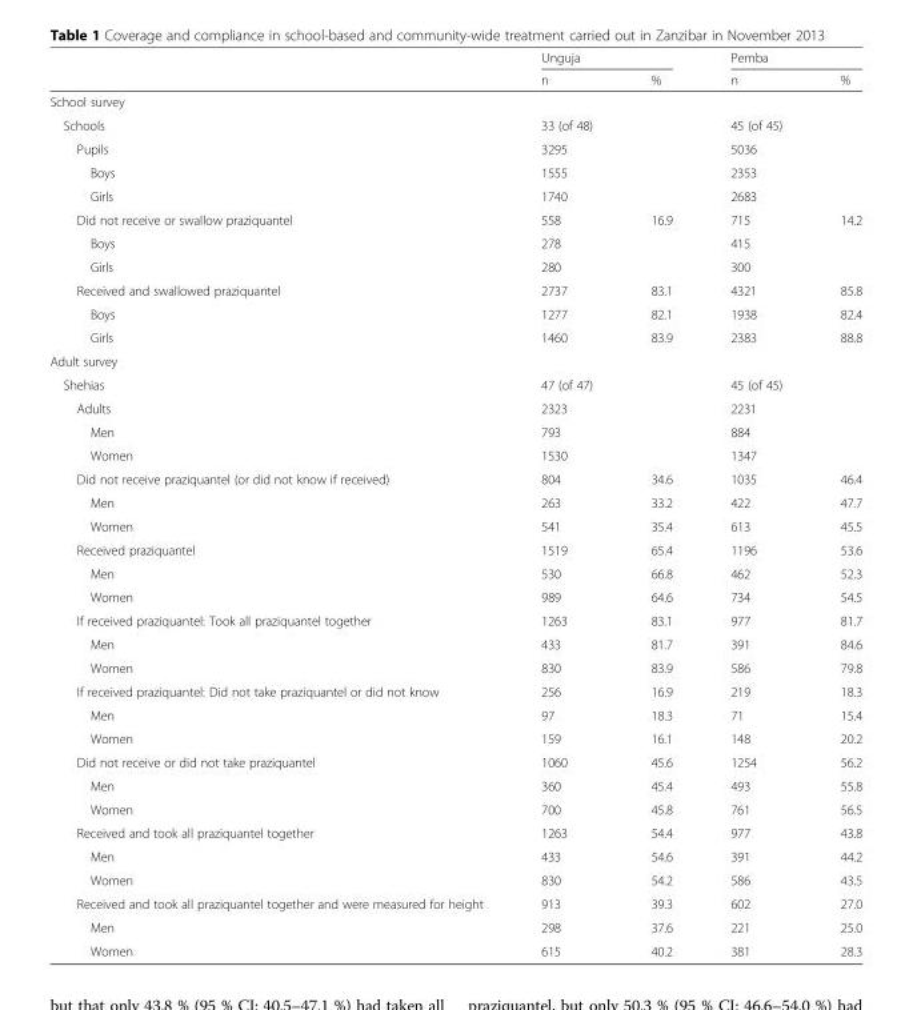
<table><thead><tr><td rowspan="2"></td><td colspan="2">Unguja</td><td colspan="2">Pemba</td></tr><tr><td>n</td><td>%</td><td>n</td><td>%</td></tr></thead><tbody><tr><td colspan="5">School survey</td></tr><tr><td>Schools</td><td colspan="2">33 (of 48)</td><td colspan="2">45 (of 45)</td></tr><tr><td>Pupils</td><td>3295</td><td></td><td>5036</td><td></td></tr><tr><td>Boys</td><td>1555</td><td></td><td>2353</td><td></td></tr><tr><td>Girls</td><td>1740</td><td></td><td>2683</td><td></td></tr><tr><td>Did not receive or swallow praziquantel</td><td>558</td><td>16.9</td><td>715</td><td>14.2</td></tr><tr><td>Boys</td><td>278</td><td></td><td>415</td><td></td></tr><tr><td>Girls</td><td>280</td><td></td><td>300</td><td></td></tr><tr><td>Received and swallowed praziquantel</td><td>2737</td><td>83.1</td><td>4321</td><td>85.8</td></tr><tr><td>Boys</td><td>1277</td><td>82.1</td><td>1938</td><td>82.4</td></tr><tr><td>Girls</td><td>1460</td><td>83.9</td><td>2383</td><td>88.8</td></tr><tr><td colspan="5">Adult survey</td></tr><tr><td>Shehias</td><td>47 (of 47)</td><td></td><td>45 (of 45)</td><td></td></tr><tr><td>Adults</td><td>2323</td><td></td><td>2231</td><td></td></tr><tr><td>Men</td><td>793</td><td></td><td>884</td><td></td></tr><tr><td>Women</td><td>1530</td><td></td><td>1347</td><td></td></tr><tr><td>Did not receive praziquantel (or did not know if received)</td><td>804</td><td>34.6</td><td>1035</td><td>46.4</td></tr><tr><td>Men</td><td>263</td><td>33.2</td><td>422</td><td>47.7</td></tr><tr><td>Women</td><td>541</td><td>35.4</td><td>613</td><td>45.5</td></tr><tr><td>Received praziquantel</td><td>1519</td><td>65.4</td><td>1196</td><td>53.6</td></tr><tr><td>Men</td><td>530</td><td>66.8</td><td>462</td><td>52.3</td></tr><tr><td>Women</td><td>989</td><td>64.6</td><td>734</td><td>54.5</td></tr><tr><td>If received praziquantel: Took all praziquantel together</td><td>1263</td><td>83.1</td><td>977</td><td>81.7</td></tr><tr><td>Men</td><td>433</td><td>81.7</td><td>391</td><td>84.6</td></tr><tr><td>Women</td><td>830</td><td>83.9</td><td>586</td><td>79.8</td></tr><tr><td>If received praziquantel: Did not take praziquantel or did not know</td><td>256</td><td>16.9</td><td>219</td><td>18.3</td></tr><tr><td>Men</td><td>97</td><td>18.3</td><td>71</td><td>15.4</td></tr><tr><td>Women</td><td>159</td><td>16.1</td><td>148</td><td>20.2</td></tr><tr><td>Did not receive or did not take praziquantel</td><td>1060</td><td>45.6</td><td>1254</td><td>56.2</td></tr><tr><td>Men</td><td>360</td><td>45.4</td><td>493</td><td>55.8</td></tr><tr><td>Women</td><td>700</td><td>45.8</td><td>761</td><td>56.5</td></tr><tr><td>Received and took all praziquantel together</td><td>1263</td><td>54.4</td><td>977</td><td>43.8</td></tr><tr><td>Men</td><td>433</td><td>54.6</td><td>391</td><td>44.2</td></tr><tr><td>Women</td><td>830</td><td>54.2</td><td>586</td><td>43.5</td></tr><tr><td>Received and took all praziquantel together and were measured for height</td><td>913</td><td>39.3</td><td>602</td><td>27.0</td></tr><tr><td>Men</td><td>298</td><td>37.6</td><td>221</td><td>25.0</td></tr><tr><td>Women</td><td>615</td><td>40.2</td><td>381</td><td>28.3</td></tr></tbody></table>